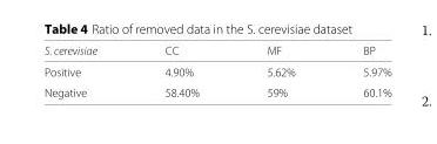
<table><thead><tr><td>S. cerevisiae</td><td>CC</td><td>MF</td><td>BP</td></tr></thead><tbody><tr><td>Positive</td><td>4.90%</td><td>5.62%</td><td>5.97%</td></tr><tr><td>Negative</td><td>58.40%</td><td>59%</td><td>60.1%</td></tr></tbody></table>